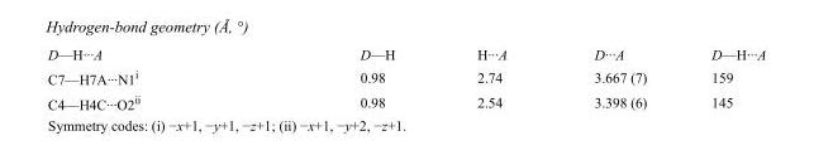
<table><tbody><tr><td>D—H···A</td><td>D—H</td><td>H···A</td><td>D···A</td><td>D—H···A</td></tr><tr><td>C7—H7A···N1<sup>i</sup></td><td>0.98</td><td>2.74</td><td>3.667 (7)</td><td>159</td></tr><tr><td>C4—H4C···O2<sup>ii</sup></td><td>0.98</td><td>2.54</td><td>3.398 (6)</td><td>145</td></tr></tbody></table>